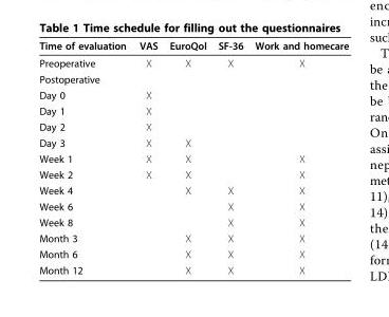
<table><thead><tr><td>Time of evaluation</td><td>VAS</td><td>EuroQol</td><td>SF-36</td><td>Work and homecare</td></tr></thead><tbody><tr><td>Preoperative</td><td>X</td><td>X</td><td>X</td><td>X</td></tr><tr><td colspan="5">Postoperative</td></tr><tr><td>Day 0</td><td>X</td><td></td><td></td><td></td></tr><tr><td>Day 1</td><td>X</td><td></td><td></td><td></td></tr><tr><td>Day 2</td><td>X</td><td></td><td></td><td></td></tr><tr><td>Day 3</td><td>X</td><td>X</td><td></td><td></td></tr><tr><td>Week 1</td><td>X</td><td>X</td><td></td><td>X</td></tr><tr><td>Week 2</td><td>X</td><td>X</td><td></td><td>X</td></tr><tr><td>Week 4</td><td></td><td>X</td><td>X</td><td>X</td></tr><tr><td>Week 6</td><td></td><td></td><td>X</td><td>X</td></tr><tr><td>Week 8</td><td></td><td></td><td>X</td><td>X</td></tr><tr><td>Month 3</td><td></td><td>X</td><td>X</td><td>X</td></tr><tr><td>Month 6</td><td></td><td>X</td><td>X</td><td>X</td></tr><tr><td>Month 12</td><td></td><td>X</td><td>X</td><td>X</td></tr></tbody></table>